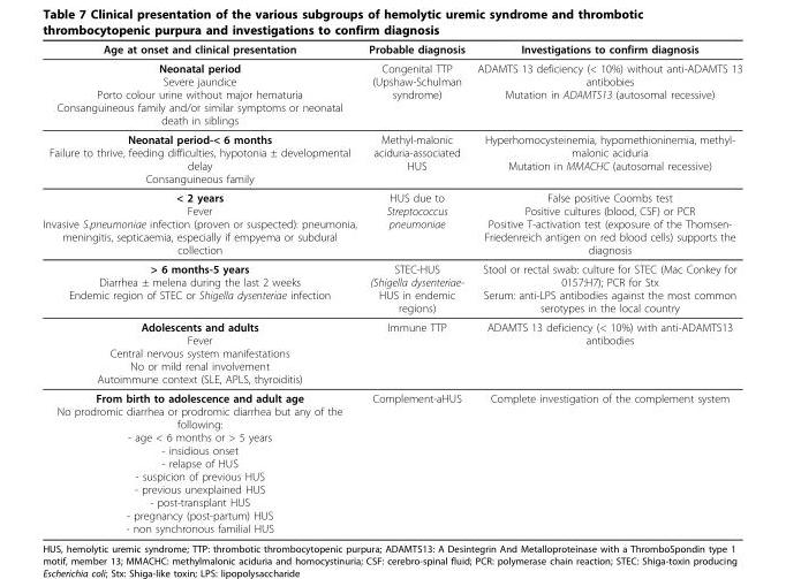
<table><thead><tr><td>Age at onset and clinical presentation</td><td>Probable diagnosis</td><td>Investigations to confirm diagnosis</td></tr></thead><tbody><tr><td>Neonatal period Severe jaundice Porto colour urine without major hematuria Consanguineous family and/or similar symptoms or neonatal death in siblings</td><td>Congenital TTP (Upshaw-Schulman syndrome)</td><td>ADAMTS 13 deficiency (&lt; 10%) without anti-ADAMTS 13 antibobies Mutation in ADAMTS13 (autosomal recessive)</td></tr><tr><td>Neonatal period-&lt; 6 months Failure to thrive, feeding difficulties, hypotonia ± developmental delay Consanguineous family</td><td>Methyl-malonic aciduria-associated HUS</td><td>Hyperhomocysteinemia, hypomethioninemia, methyl- malonic aciduria Mutation in MMACHC (autosomal recessive)</td></tr><tr><td>&lt; 2 years Fever Invasive S.pneumoniae infection (proven or suspected): pneumonia, meningitis, septicaemia, especially if empyema or subdural collection</td><td>HUS due to Streptococcus pneumoniae</td><td>False positive Coombs test Positive cultures (blood, CSF) or PCR Positive T-activation test (exposure of the Thomsen- Friedenreich antigen on red blood cells) supports the diagnosis</td></tr><tr><td>&gt; 6 months-5 years Diarrhea ± melena during the last 2 weeks Endemic region of STEC or Shigella dysenteriae infection</td><td>STEC-HUS (Shigella dysenteriae- HUS in endemic regions)</td><td>Stool or rectal swab: culture for STEC (Mac Conkey for 0157:H7); PCR for Stx Serum: anti-LPS antibodies against the most common serotypes in the local country</td></tr><tr><td>Adolescents and adults Fever Central nervous system manifestations No or mild renal involvement Autoimmune context (SLE, APLS, thyroiditis)</td><td>Immune TTP</td><td>ADAMTS 13 deficiency (&lt; 10%) with anti-ADAMTS13 antibodies</td></tr><tr><td>From birth to adolescence and adult age No prodromic diarrhea or prodromic diarrhea but any of the following: - age &lt; 6 months or &gt; 5 years - insidious onset - relapse of HUS - suspicion of previous HUS - previous unexplained HUS - post-transplant HUS - pregnancy (post-partum) HUS - non synchronous familial HUS</td><td>Complement-aHUS</td><td>Complete investigation of the complement system</td></tr></tbody></table>